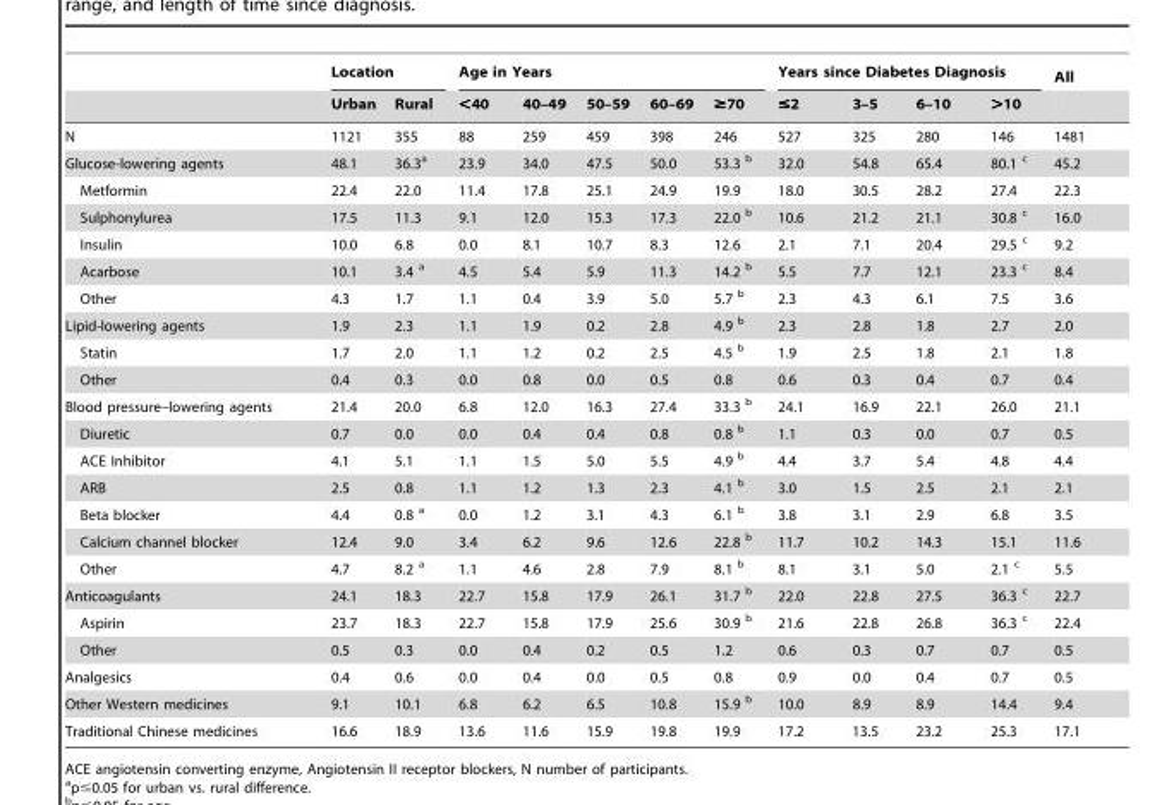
<table><thead><tr><td rowspan="2"></td><td colspan="2">Location</td><td colspan="5">Age in Years</td><td colspan="4">Years since Diabetes Diagnosis</td><td rowspan="2">All</td></tr><tr><td>Urban</td><td>Rural</td><td>&lt;40</td><td>40–49</td><td>50–59</td><td>60–69</td><td>≥70</td><td>≤2</td><td>3–5</td><td>6–10</td><td>&gt;10</td></tr></thead><tbody><tr><td>N</td><td>1121</td><td>355</td><td>88</td><td>259</td><td>459</td><td>398</td><td>246</td><td>527</td><td>325</td><td>280</td><td>146</td><td>1481</td></tr><tr><td>Glucose-lowering agents</td><td>48.1</td><td>36.3<sup>a</sup></td><td>23.9</td><td>34.0</td><td>47.5</td><td>50.0</td><td>53.3 b</td><td>32.0</td><td>54.8</td><td>65.4</td><td>80.1 c</td><td>45.2</td></tr><tr><td>Metformin</td><td>22.4</td><td>22.0</td><td>11.4</td><td>17.8</td><td>25.1</td><td>24.9</td><td>19.9</td><td>18.0</td><td>30.5</td><td>28.2</td><td>27.4</td><td>22.3</td></tr><tr><td>Sulphonylurea</td><td>17.5</td><td>11.3</td><td>9.1</td><td>12.0</td><td>15.3</td><td>17.3</td><td>22.0 b</td><td>10.6</td><td>21.2</td><td>21.1</td><td>30.8 c</td><td>16.0</td></tr><tr><td>Insulin</td><td>10.0</td><td>6.8</td><td>0.0</td><td>8.1</td><td>10.7</td><td>8.3</td><td>12.6</td><td>2.1</td><td>7.1</td><td>20.4</td><td>29.5 c</td><td>9.2</td></tr><tr><td>Acarbose</td><td>10.1</td><td>3.4 a</td><td>4.5</td><td>5.4</td><td>5.9</td><td>11.3</td><td>14.2 b</td><td>5.5</td><td>7.7</td><td>12.1</td><td>23.3 c</td><td>8.4</td></tr><tr><td>Other</td><td>4.3</td><td>1.7</td><td>1.1</td><td>0.4</td><td>3.9</td><td>5.0</td><td>5.7 b</td><td>2.3</td><td>4.3</td><td>6.1</td><td>7.5</td><td>3.6</td></tr><tr><td>Lipid-lowering agents</td><td>1.9</td><td>2.3</td><td>1.1</td><td>1.9</td><td>0.2</td><td>2.8</td><td>4.9 b</td><td>2.3</td><td>2.8</td><td>1.8</td><td>2.7</td><td>2.0</td></tr><tr><td>Statin</td><td>1.7</td><td>2.0</td><td>1.1</td><td>1.2</td><td>0.2</td><td>2.5</td><td>4.5 b</td><td>1.9</td><td>2.5</td><td>1.8</td><td>2.1</td><td>1.8</td></tr><tr><td>Other</td><td>0.4</td><td>0.3</td><td>0.0</td><td>0.8</td><td>0.0</td><td>0.5</td><td>0.8</td><td>0.6</td><td>0.3</td><td>0.4</td><td>0.7</td><td>0.4</td></tr><tr><td>Blood pressure–lowering agents</td><td>21.4</td><td>20.0</td><td>6.8</td><td>12.0</td><td>16.3</td><td>27.4</td><td>33.3 b</td><td>24.1</td><td>16.9</td><td>22.1</td><td>26.0</td><td>21.1</td></tr><tr><td>Diuretic</td><td>0.7</td><td>0.0</td><td>0.0</td><td>0.4</td><td>0.4</td><td>0.8</td><td>0.8 b</td><td>1.1</td><td>0.3</td><td>0.0</td><td>0.7</td><td>0.5</td></tr><tr><td>ACE Inhibitor</td><td>4.1</td><td>5.1</td><td>1.1</td><td>1.5</td><td>5.0</td><td>5.5</td><td>4.9 b</td><td>4.4</td><td>3.7</td><td>5.4</td><td>4.8</td><td>4.4</td></tr><tr><td>ARB</td><td>2.5</td><td>0.8</td><td>1.1</td><td>1.2</td><td>1.3</td><td>2.3</td><td>4.1 b</td><td>3.0</td><td>1.5</td><td>2.5</td><td>2.1</td><td>2.1</td></tr><tr><td>Beta blocker</td><td>4.4</td><td>0.8 a</td><td>0.0</td><td>1.2</td><td>3.1</td><td>4.3</td><td>6.1 b</td><td>3.8</td><td>3.1</td><td>2.9</td><td>6.8</td><td>3.5</td></tr><tr><td>Calcium channel blocker</td><td>12.4</td><td>9.0</td><td>3.4</td><td>6.2</td><td>9.6</td><td>12.6</td><td>22.8 b</td><td>11.7</td><td>10.2</td><td>14.3</td><td>15.1</td><td>11.6</td></tr><tr><td>Other</td><td>4.7</td><td>8.2 a</td><td>1.1</td><td>4.6</td><td>2.8</td><td>7.9</td><td>8.1 b</td><td>8.1</td><td>3.1</td><td>5.0</td><td>2.1 c</td><td>5.5</td></tr><tr><td>Anticoagulants</td><td>24.1</td><td>18.3</td><td>22.7</td><td>15.8</td><td>17.9</td><td>26.1</td><td>31.7 b</td><td>22.0</td><td>22.8</td><td>27.5</td><td>36.3 c</td><td>22.7</td></tr><tr><td>Aspirin</td><td>23.7</td><td>18.3</td><td>22.7</td><td>15.8</td><td>17.9</td><td>25.6</td><td>30.9 b</td><td>21.6</td><td>22.8</td><td>26.8</td><td>36.3 c</td><td>22.4</td></tr><tr><td>Other</td><td>0.5</td><td>0.3</td><td>0.0</td><td>0.4</td><td>0.2</td><td>0.5</td><td>1.2</td><td>0.6</td><td>0.3</td><td>0.7</td><td>0.7</td><td>0.5</td></tr><tr><td>Analgesics</td><td>0.4</td><td>0.6</td><td>0.0</td><td>0.4</td><td>0.0</td><td>0.5</td><td>0.8</td><td>0.9</td><td>0.0</td><td>0.4</td><td>0.7</td><td>0.5</td></tr><tr><td>Other Western medicines</td><td>9.1</td><td>10.1</td><td>6.8</td><td>6.2</td><td>6.5</td><td>10.8</td><td>15.9 b</td><td>10.0</td><td>8.9</td><td>8.9</td><td>14.4</td><td>9.4</td></tr><tr><td>Traditional Chinese medicines</td><td>16.6</td><td>18.9</td><td>13.6</td><td>11.6</td><td>15.9</td><td>19.8</td><td>19.9</td><td>17.2</td><td>13.5</td><td>23.2</td><td>25.3</td><td>17.1</td></tr></tbody></table>